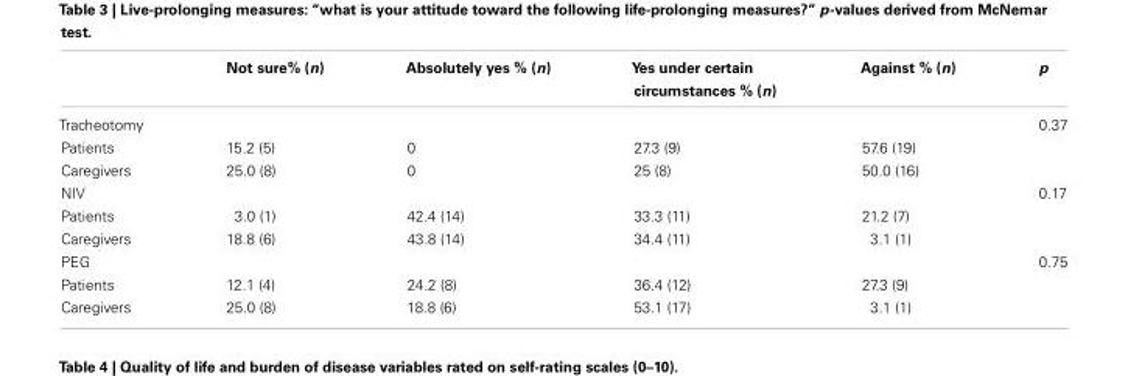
<table><thead><tr><td></td><td>Not sure% (n)</td><td>Absolutely yes % (n)</td><td>Yes under certain circumstances % (n)</td><td>Against % (n)</td><td>p</td></tr></thead><tbody><tr><td>Tracheotomy</td><td></td><td></td><td></td><td></td><td>0.37</td></tr><tr><td>Patients</td><td>15.2 (5)</td><td>0</td><td>27.3 (9)</td><td>57.6 (19)</td><td></td></tr><tr><td>Caregivers</td><td>25.0 (8)</td><td>0</td><td>25 (8)</td><td>50.0 (16)</td><td></td></tr><tr><td>NIV</td><td></td><td></td><td></td><td></td><td>0.17</td></tr><tr><td>Patients</td><td>3.0 (1)</td><td>42.4 (14)</td><td>33.3 (11)</td><td>21.2 (7)</td><td></td></tr><tr><td>Caregivers</td><td>18.8 (6)</td><td>43.8 (14)</td><td>34.4 (11)</td><td>3.1 (1)</td><td></td></tr><tr><td>PEG</td><td></td><td></td><td></td><td></td><td>0.75</td></tr><tr><td>Patients</td><td>12.1 (4)</td><td>24.2 (8)</td><td>36.4 (12)</td><td>27.3 (9)</td><td></td></tr><tr><td>Caregivers</td><td>25.0 (8)</td><td>18.8 (6)</td><td>53.1 (17)</td><td>3.1 (1)</td><td></td></tr></tbody></table>